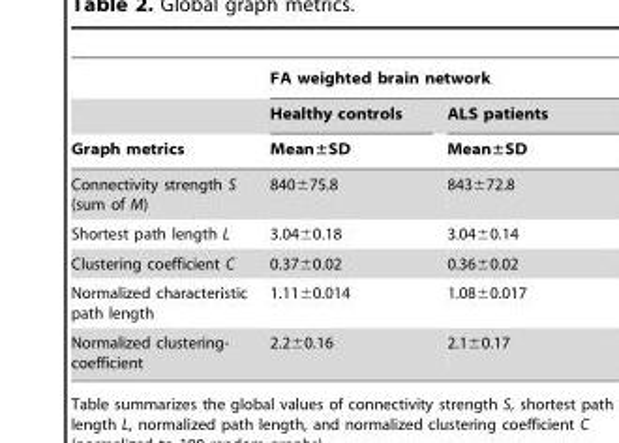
<table><thead><tr><td rowspan="3">Graph metrics</td><td colspan="2">FA weighted brain network</td></tr><tr><td rowspan="2">Healthy controls Mean±SD</td><td rowspan="2">ALS patients Mean±SD</td></tr><tr></tr></thead><tbody><tr><td>Connectivity strength S (sum of M)</td><td>840±75.8</td><td>843±72.8</td></tr><tr><td>Shortest path length L</td><td>3.04±0.18</td><td>3.04±0.14</td></tr><tr><td>Clustering coefficient C</td><td>0.37±0.02</td><td>0.36±0.02</td></tr><tr><td>Normalized characteristic path length</td><td>1.11±0.014</td><td>1.08±0.017</td></tr><tr><td>Normalized clustering- coefficient</td><td>2.2±0.16</td><td>2.1±0.17</td></tr></tbody></table>